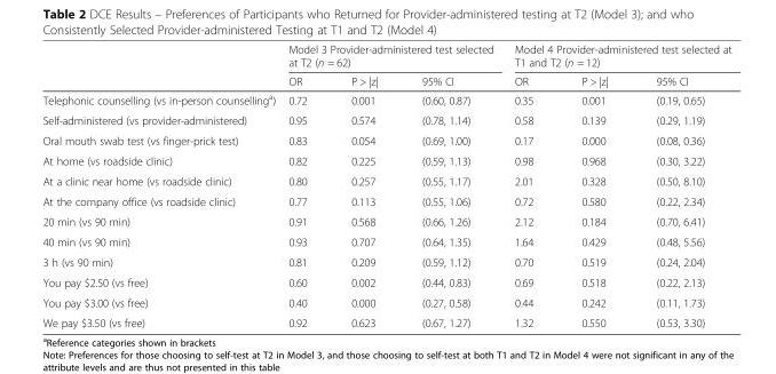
<table><thead><tr><td rowspan="2"></td><td colspan="3">Model 3 Provider-administered test selected at T2 (n = 62)</td><td colspan="3">Model 4 Provider-administered test selected at T1 and T2 (n = 12)</td></tr><tr><td>OR</td><td>P &gt; |z|</td><td>95% CI</td><td>OR</td><td>P &gt; |z|</td><td>95% CI</td></tr></thead><tbody><tr><td>Telephonic counselling (vs in-person counselling<sup>a</sup>)</td><td>0.72</td><td>0.001</td><td>(0.60, 0.87)</td><td>0.35</td><td>0.001</td><td>(0.19, 0.65)</td></tr><tr><td>Self-administered (vs provider-administered)</td><td>0.95</td><td>0.574</td><td>(0.78, 1.14)</td><td>0.58</td><td>0.139</td><td>(0.29, 1.19)</td></tr><tr><td>Oral mouth swab test (vs finger-prick test)</td><td>0.83</td><td>0.054</td><td>(0.69, 1.00)</td><td>0.17</td><td>0.000</td><td>(0.08, 0.36)</td></tr><tr><td>At home (vs roadside clinic)</td><td>0.82</td><td>0.225</td><td>(0.59, 1.13)</td><td>0.98</td><td>0.968</td><td>(0.30, 3.22)</td></tr><tr><td>At a clinic near home (vs roadside clinic)</td><td>0.80</td><td>0.257</td><td>(0.55, 1.17)</td><td>2.01</td><td>0.328</td><td>(0.50, 8.10)</td></tr><tr><td>At the company office (vs roadside clinic)</td><td>0.77</td><td>0.113</td><td>(0.55, 1.06)</td><td>0.72</td><td>0.580</td><td>(0.22, 2.34)</td></tr><tr><td>20 min (vs 90 min)</td><td>0.91</td><td>0.568</td><td>(0.66, 1.26)</td><td>2.12</td><td>0.184</td><td>(0.70, 6.41)</td></tr><tr><td>40 min (vs 90 min)</td><td>0.93</td><td>0.707</td><td>(0.64, 1.35)</td><td>1.64</td><td>0.429</td><td>(0.48, 5.56)</td></tr><tr><td>3 h (vs 90 min)</td><td>0.81</td><td>0.209</td><td>(0.59, 1.12)</td><td>0.70</td><td>0.519</td><td>(0.24, 2.04)</td></tr><tr><td>You pay $2.50 (vs free)</td><td>0.60</td><td>0.002</td><td>(0.44, 0.83)</td><td>0.69</td><td>0.518</td><td>(0.22, 2.13)</td></tr><tr><td>You pay $3.00 (vs free)</td><td>0.40</td><td>0.000</td><td>(0.27, 0.58)</td><td>0.44</td><td>0.242</td><td>(0.11, 1.73)</td></tr><tr><td>We pay $3.50 (vs free)</td><td>0.92</td><td>0.623</td><td>(0.67, 1.27)</td><td>1.32</td><td>0.550</td><td>(0.53, 3.30)</td></tr></tbody></table>